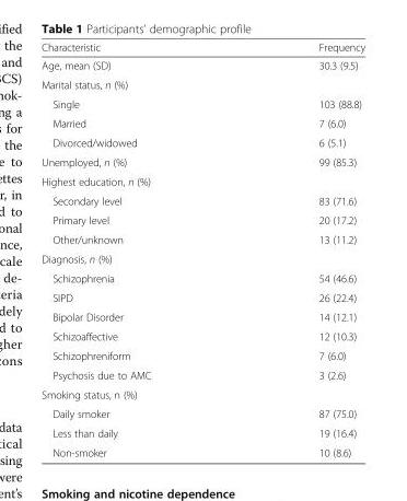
<table><thead><tr><td>Characteristic</td><td>Frequency</td></tr></thead><tbody><tr><td>Age, mean (SD)</td><td>30.3 (9.5)</td></tr><tr><td colspan="2">Marital status, n (%)</td></tr><tr><td>Single</td><td>103 (88.8)</td></tr><tr><td>Married</td><td>7 (6.0)</td></tr><tr><td>Divorced/widowed</td><td>6 (5.1)</td></tr><tr><td>Unemployed, n (%)</td><td>99 (85.3)</td></tr><tr><td colspan="2">Highest education, n (%)</td></tr><tr><td>Secondary level</td><td>83 (71.6)</td></tr><tr><td>Primary level</td><td>20 (17.2)</td></tr><tr><td>Other/unknown</td><td>13 (11.2)</td></tr><tr><td colspan="2">Diagnosis, n (%)</td></tr><tr><td>Schizophrenia</td><td>54 (46.6)</td></tr><tr><td>SIPD</td><td>26 (22.4)</td></tr><tr><td>Bipolar Disorder</td><td>14 (12.1)</td></tr><tr><td>Schizoaffective</td><td>12 (10.3)</td></tr><tr><td>Schizophreniform</td><td>7 (6.0)</td></tr><tr><td>Psychosis due to AMC</td><td>3 (2.6)</td></tr><tr><td colspan="2">Smoking status, n (%)</td></tr><tr><td>Daily smoker</td><td>87 (75.0)</td></tr><tr><td>Less than daily</td><td>19 (16.4)</td></tr><tr><td>Non-smoker</td><td>10 (8.6)</td></tr></tbody></table>